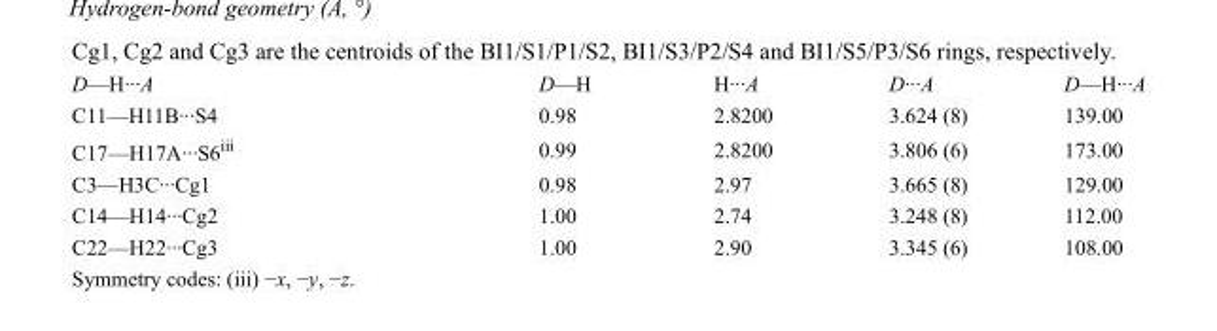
<table><tbody><tr><td>D—H···A</td><td>D—H</td><td>H···A</td><td>D···A</td><td>D—H···A</td></tr><tr><td>C11—H11B···S4</td><td>0.98</td><td>2.8200</td><td>3.624 (8)</td><td>139.00</td></tr><tr><td>C17—H17A···S6<sup>iii</sup></td><td>0.99</td><td>2.8200</td><td>3.806 (6)</td><td>173.00</td></tr><tr><td>C3—H3C···Cg1</td><td>0.98</td><td>2.97</td><td>3.665 (8)</td><td>129.00</td></tr><tr><td>C14—H14···Cg2</td><td>1.00</td><td>2.74</td><td>3.248 (8)</td><td>112.00</td></tr><tr><td>C22—H22···Cg3</td><td>1.00</td><td>2.90</td><td>3.345 (6)</td><td>108.00</td></tr></tbody></table>